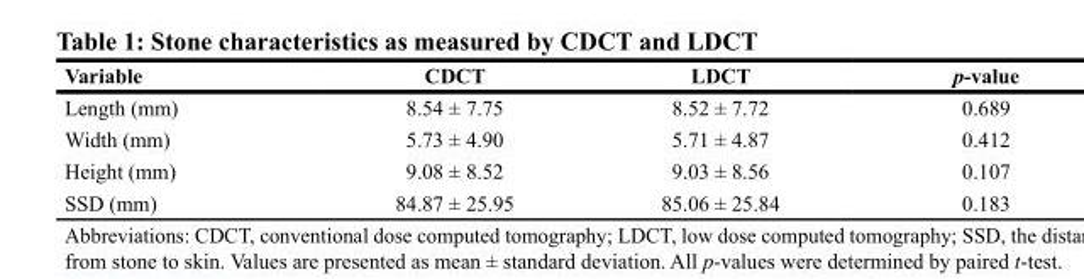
<table><thead><tr><td>Variable</td><td>CDCT</td><td>LDCT</td><td>p-value</td></tr></thead><tbody><tr><td>Length (mm)</td><td>8.54 ± 7.75</td><td>8.52 ± 7.72</td><td>0.689</td></tr><tr><td>Width (mm)</td><td>5.73 ± 4.90</td><td>5.71 ± 4.87</td><td>0.412</td></tr><tr><td>Height (mm)</td><td>9.08 ± 8.52</td><td>9.03 ± 8.56</td><td>0.107</td></tr><tr><td>SSD (mm)</td><td>84.87 ± 25.95</td><td>85.06 ± 25.84</td><td>0.183</td></tr></tbody></table>